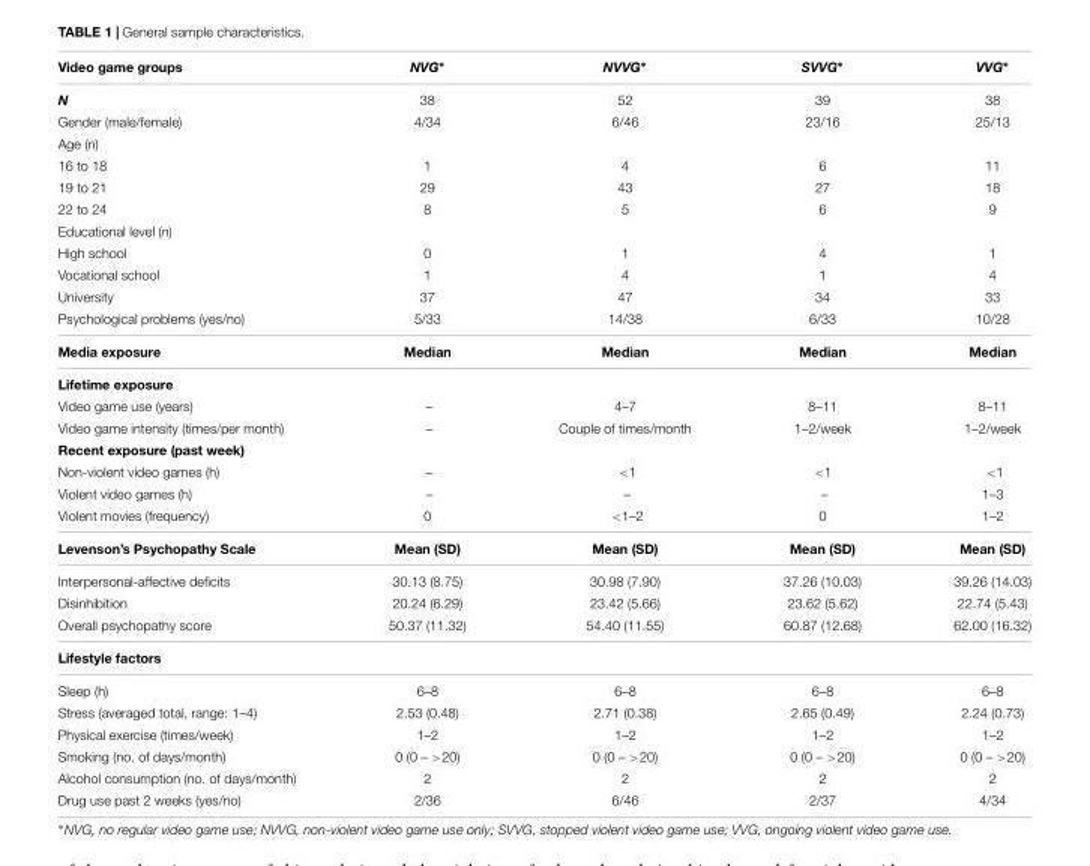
<table><thead><tr><td>Video game groups</td><td>NVG∗</td><td>NVVG∗</td><td>SVVG∗</td><td>VVG∗</td></tr></thead><tbody><tr><td>N</td><td>38</td><td>52</td><td>39</td><td>38</td></tr><tr><td>Gender (male/female)</td><td>4/34</td><td>6/46</td><td>23/16</td><td>25/13</td></tr><tr><td colspan="5">Age (n)</td></tr><tr><td>16 to 18</td><td>1</td><td>4</td><td>6</td><td>11</td></tr><tr><td>19 to 21</td><td>29</td><td>43</td><td>27</td><td>18</td></tr><tr><td>22 to 24</td><td>8</td><td>5</td><td>6</td><td>9</td></tr><tr><td colspan="5">Educational level (n)</td></tr><tr><td>High school</td><td>0</td><td>1</td><td>4</td><td>1</td></tr><tr><td>Vocational school</td><td>1</td><td>4</td><td>1</td><td>4</td></tr><tr><td>University</td><td>37</td><td>47</td><td>34</td><td>33</td></tr><tr><td>Psychological problems (yes/no)</td><td>5/33</td><td>14/38</td><td>6/33</td><td>10/28</td></tr><tr><td>Media exposure</td><td>Median</td><td>Median</td><td>Median</td><td>Median</td></tr><tr><td colspan="5">Lifetime exposure</td></tr><tr><td>Video game use (years)</td><td>–</td><td>4–7</td><td>8–11</td><td>8–11</td></tr><tr><td>Video game intensity (times/per month)</td><td>–</td><td>Couple of times/month</td><td>1–2/week</td><td>1–2/week</td></tr><tr><td colspan="5">Recent exposure (past week)</td></tr><tr><td>Non-violent video games (h)</td><td>–</td><td>&lt;1</td><td>&lt;1</td><td>&lt;1</td></tr><tr><td>Violent video games (h)</td><td>–</td><td>–</td><td>–</td><td>1–3</td></tr><tr><td>Violent movies (frequency)</td><td>0</td><td>&lt;1–2</td><td>0</td><td>1–2</td></tr><tr><td>Levenson’s Psychopathy Scale</td><td>Mean (SD)</td><td>Mean (SD)</td><td>Mean (SD)</td><td>Mean (SD)</td></tr><tr><td>Interpersonal-affective deficits</td><td>30.13 (8.75)</td><td>30.98 (7.90)</td><td>37.26 (10.03)</td><td>39.26 (14.03)</td></tr><tr><td>Disinhibition</td><td>20.24 (6.29)</td><td>23.42 (5.66)</td><td>23.62 (5.62)</td><td>22.74 (5.43)</td></tr><tr><td>Overall psychopathy score</td><td>50.37 (11.32)</td><td>54.40 (11.55)</td><td>60.87 (12.68)</td><td>62.00 (16.32)</td></tr><tr><td colspan="5">Lifestyle factors</td></tr><tr><td>Sleep (h)</td><td>6–8</td><td>6–8</td><td>6–8</td><td>6–8</td></tr><tr><td>Stress (averaged total, range: 1–4)</td><td>2.53 (0.48)</td><td>2.71 (0.38)</td><td>2.65 (0.49)</td><td>2.24 (0.73)</td></tr><tr><td>Physical exercise (times/week)</td><td>1–2</td><td>1–2</td><td>1–2</td><td>1–2</td></tr><tr><td>Smoking (no. of days/month)</td><td>0 (0 – &gt;20)</td><td>0 (0 – &gt;20)</td><td>0 (0 – &gt;20)</td><td>0 (0 – &gt;20)</td></tr><tr><td>Alcohol consumption (no. of days/month)</td><td>2</td><td>2</td><td>2</td><td>2</td></tr><tr><td>Drug use past 2 weeks (yes/no)</td><td>2/36</td><td>6/46</td><td>2/37</td><td>4/34</td></tr></tbody></table>